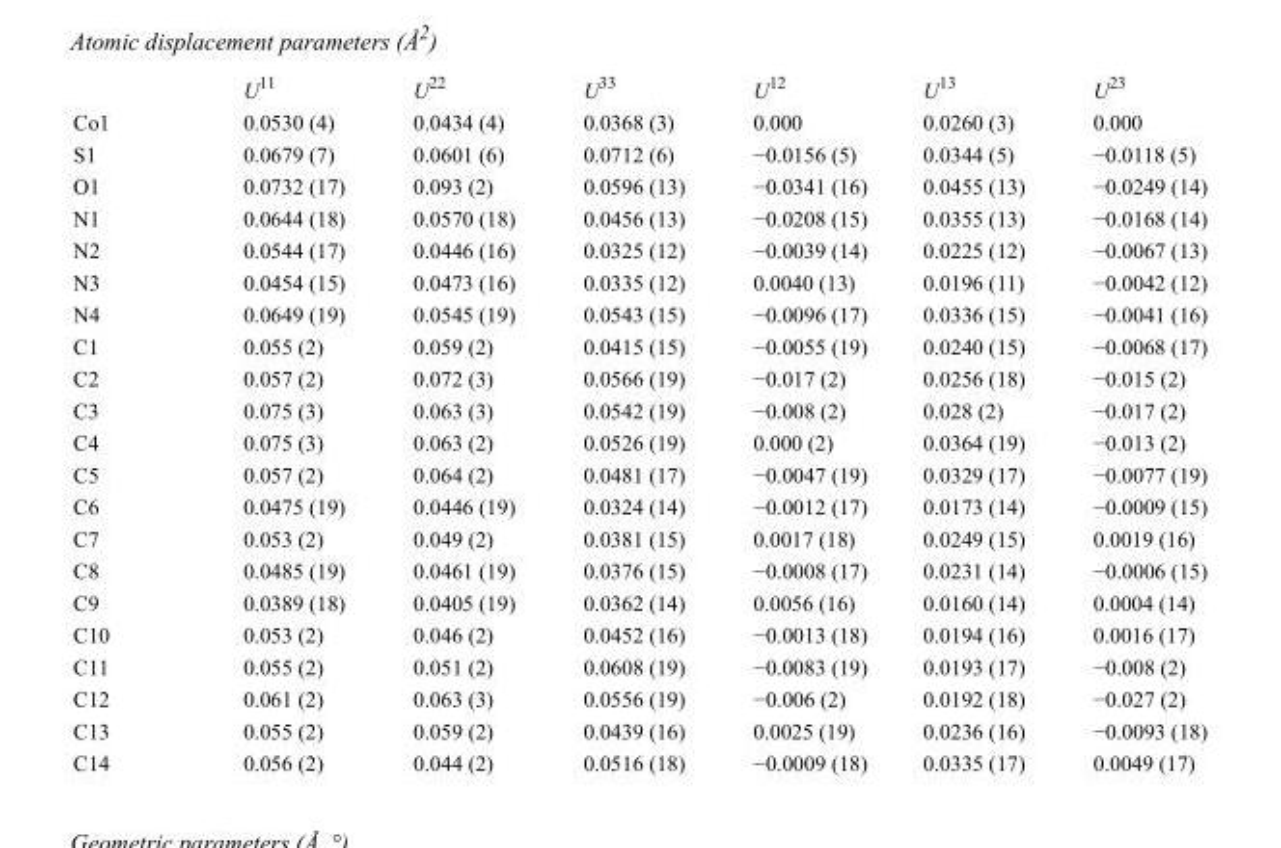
<table><thead><tr><td></td><td>U<sup>11</sup></td><td>U<sup>22</sup></td><td>U<sup>33</sup></td><td>U<sup>12</sup></td><td>U<sup>13</sup></td><td>U<sup>23</sup></td></tr></thead><tbody><tr><td>Co1</td><td>0.0530 (4)</td><td>0.0434 (4)</td><td>0.0368 (3)</td><td>0.000</td><td>0.0260 (3)</td><td>0.000</td></tr><tr><td>S1</td><td>0.0679 (7)</td><td>0.0601 (6)</td><td>0.0712 (6)</td><td>−0.0156 (5)</td><td>0.0344 (5)</td><td>−0.0118 (5)</td></tr><tr><td>O1</td><td>0.0732 (17)</td><td>0.093 (2)</td><td>0.0596 (13)</td><td>−0.0341 (16)</td><td>0.0455 (13)</td><td>−0.0249 (14)</td></tr><tr><td>N1</td><td>0.0644 (18)</td><td>0.0570 (18)</td><td>0.0456 (13)</td><td>−0.0208 (15)</td><td>0.0355 (13)</td><td>−0.0168 (14)</td></tr><tr><td>N2</td><td>0.0544 (17)</td><td>0.0446 (16)</td><td>0.0325 (12)</td><td>−0.0039 (14)</td><td>0.0225 (12)</td><td>−0.0067 (13)</td></tr><tr><td>N3</td><td>0.0454 (15)</td><td>0.0473 (16)</td><td>0.0335 (12)</td><td>0.0040 (13)</td><td>0.0196 (11)</td><td>−0.0042 (12)</td></tr><tr><td>N4</td><td>0.0649 (19)</td><td>0.0545 (19)</td><td>0.0543 (15)</td><td>−0.0096 (17)</td><td>0.0336 (15)</td><td>−0.0041 (16)</td></tr><tr><td>C1</td><td>0.055 (2)</td><td>0.059 (2)</td><td>0.0415 (15)</td><td>−0.0055 (19)</td><td>0.0240 (15)</td><td>−0.0068 (17)</td></tr><tr><td>C2</td><td>0.057 (2)</td><td>0.072 (3)</td><td>0.0566 (19)</td><td>−0.017 (2)</td><td>0.0256 (18)</td><td>−0.015 (2)</td></tr><tr><td>C3</td><td>0.075 (3)</td><td>0.063 (3)</td><td>0.0542 (19)</td><td>−0.008 (2)</td><td>0.028 (2)</td><td>−0.017 (2)</td></tr><tr><td>C4</td><td>0.075 (3)</td><td>0.063 (2)</td><td>0.0526 (19)</td><td>0.000 (2)</td><td>0.0364 (19)</td><td>−0.013 (2)</td></tr><tr><td>C5</td><td>0.057 (2)</td><td>0.064 (2)</td><td>0.0481 (17)</td><td>−0.0047 (19)</td><td>0.0329 (17)</td><td>−0.0077 (19)</td></tr><tr><td>C6</td><td>0.0475 (19)</td><td>0.0446 (19)</td><td>0.0324 (14)</td><td>−0.0012 (17)</td><td>0.0173 (14)</td><td>−0.0009 (15)</td></tr><tr><td>C7</td><td>0.053 (2)</td><td>0.049 (2)</td><td>0.0381 (15)</td><td>0.0017 (18)</td><td>0.0249 (15)</td><td>0.0019 (16)</td></tr><tr><td>C8</td><td>0.0485 (19)</td><td>0.0461 (19)</td><td>0.0376 (15)</td><td>−0.0008 (17)</td><td>0.0231 (14)</td><td>−0.0006 (15)</td></tr><tr><td>C9</td><td>0.0389 (18)</td><td>0.0405 (19)</td><td>0.0362 (14)</td><td>0.0056 (16)</td><td>0.0160 (14)</td><td>0.0004 (14)</td></tr><tr><td>C10</td><td>0.053 (2)</td><td>0.046 (2)</td><td>0.0452 (16)</td><td>−0.0013 (18)</td><td>0.0194 (16)</td><td>0.0016 (17)</td></tr><tr><td>C11</td><td>0.055 (2)</td><td>0.051 (2)</td><td>0.0608 (19)</td><td>−0.0083 (19)</td><td>0.0193 (17)</td><td>−0.008 (2)</td></tr><tr><td>C12</td><td>0.061 (2)</td><td>0.063 (3)</td><td>0.0556 (19)</td><td>−0.006 (2)</td><td>0.0192 (18)</td><td>−0.027 (2)</td></tr><tr><td>C13</td><td>0.055 (2)</td><td>0.059 (2)</td><td>0.0439 (16)</td><td>0.0025 (19)</td><td>0.0236 (16)</td><td>−0.0093 (18)</td></tr><tr><td>C14</td><td>0.056 (2)</td><td>0.044 (2)</td><td>0.0516 (18)</td><td>−0.0009 (18)</td><td>0.0335 (17)</td><td>0.0049 (17)</td></tr></tbody></table>